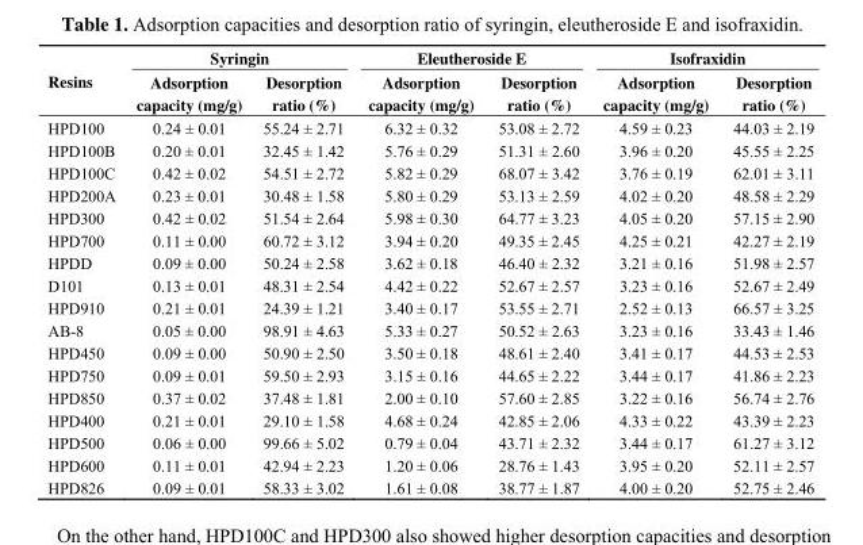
<table><thead><tr><td rowspan="2">Resins</td><td colspan="2">Syringin</td><td colspan="2">Eleutheroside E</td><td colspan="2">Isofraxidin</td></tr><tr><td>Adsorption capacity (mg/g)</td><td>Desorption ratio (%)</td><td>Adsorption capacity (mg/g)</td><td>Desorption ratio (%)</td><td>Adsorption capacity (mg/g)</td><td>Desorption ratio (%)</td></tr></thead><tbody><tr><td>HPD100</td><td>0.24 ± 0.01</td><td>55.24 ± 2.71</td><td>6.32 ± 0.32</td><td>53.08 ± 2.72</td><td>4.59 ± 0.23</td><td>44.03 ± 2.19</td></tr><tr><td>HPD100B</td><td>0.20 ± 0.01</td><td>32.45 ± 1.42</td><td>5.76 ± 0.29</td><td>51.31 ± 2.60</td><td>3.96 ± 0.20</td><td>45.55 ± 2.25</td></tr><tr><td>HPD100C</td><td>0.42 ± 0.02</td><td>54.51 ± 2.72</td><td>5.82 ± 0.29</td><td>68.07 ± 3.42</td><td>3.76 ± 0.19</td><td>62.01 ± 3.11</td></tr><tr><td>HPD200A</td><td>0.23 ± 0.01</td><td>30.48 ± 1.58</td><td>5.80 ± 0.29</td><td>53.13 ± 2.59</td><td>4.02 ± 0.20</td><td>48.58 ± 2.29</td></tr><tr><td>HPD300</td><td>0.42 ± 0.02</td><td>51.54 ± 2.64</td><td>5.98 ± 0.30</td><td>64.77 ± 3.23</td><td>4.05 ± 0.20</td><td>57.15 ± 2.90</td></tr><tr><td>HPD700</td><td>0.11 ± 0.00</td><td>60.72 ± 3.12</td><td>3.94 ± 0.20</td><td>49.35 ± 2.45</td><td>4.25 ± 0.21</td><td>42.27 ± 2.19</td></tr><tr><td>HPDD</td><td>0.09 ± 0.00</td><td>50.24 ± 2.58</td><td>3.62 ± 0.18</td><td>46.40 ± 2.32</td><td>3.21 ± 0.16</td><td>51.98 ± 2.57</td></tr><tr><td>D101</td><td>0.13 ± 0.01</td><td>48.31 ± 2.54</td><td>4.42 ± 0.22</td><td>52.67 ± 2.57</td><td>3.23 ± 0.16</td><td>52.67 ± 2.49</td></tr><tr><td>HPD910</td><td>0.21 ± 0.01</td><td>24.39 ± 1.21</td><td>3.40 ± 0.17</td><td>53.55 ± 2.71</td><td>2.52 ± 0.13</td><td>66.57 ± 3.25</td></tr><tr><td>AB-8</td><td>0.05 ± 0.00</td><td>98.91 ± 4.63</td><td>5.33 ± 0.27</td><td>50.52 ± 2.63</td><td>3.23 ± 0.16</td><td>33.43 ± 1.46</td></tr><tr><td>HPD450</td><td>0.09 ± 0.00</td><td>50.90 ± 2.50</td><td>3.50 ± 0.18</td><td>48.61 ± 2.40</td><td>3.41 ± 0.17</td><td>44.53 ± 2.53</td></tr><tr><td>HPD750</td><td>0.09 ± 0.01</td><td>59.50 ± 2.93</td><td>3.15 ± 0.16</td><td>44.65 ± 2.22</td><td>3.44 ± 0.17</td><td>41.86 ± 2.23</td></tr><tr><td>HPD850</td><td>0.37 ± 0.02</td><td>37.48 ± 1.81</td><td>2.00 ± 0.10</td><td>57.60 ± 2.85</td><td>3.22 ± 0.16</td><td>56.74 ± 2.76</td></tr><tr><td>HPD400</td><td>0.21 ± 0.01</td><td>29.10 ± 1.58</td><td>4.68 ± 0.24</td><td>42.85 ± 2.06</td><td>4.33 ± 0.22</td><td>43.39 ± 2.23</td></tr><tr><td>HPD500</td><td>0.06 ± 0.00</td><td>99.66 ± 5.02</td><td>0.79 ± 0.04</td><td>43.71 ± 2.32</td><td>3.44 ± 0.17</td><td>61.27 ± 3.12</td></tr><tr><td>HPD600</td><td>0.11 ± 0.01</td><td>42.94 ± 2.23</td><td>1.20 ± 0.06</td><td>28.76 ± 1.43</td><td>3.95 ± 0.20</td><td>52.11 ± 2.57</td></tr><tr><td>HPD826</td><td>0.09 ± 0.01</td><td>58.33 ± 3.02</td><td>1.61 ± 0.08</td><td>38.77 ± 1.87</td><td>4.00 ± 0.20</td><td>52.75 ± 2.46</td></tr></tbody></table>